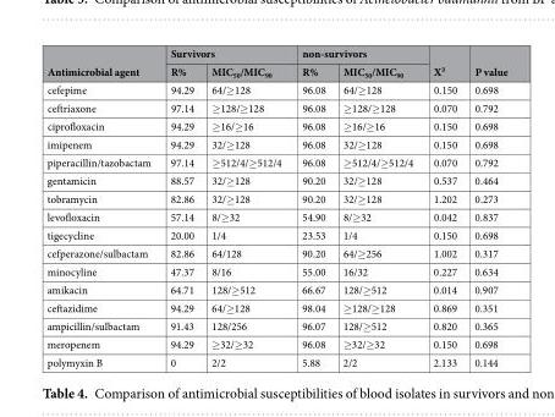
<table><thead><tr><td rowspan="2">Antimicrobial agent</td><td colspan="2">Survivors</td><td colspan="2">non-survivors</td><td rowspan="2">X²</td><td rowspan="2">P value</td></tr><tr><td>R%</td><td>MIC<sub>50</sub>/MIC<sub>90</sub></td><td>R%</td><td>MIC<sub>50</sub>/MIC<sub>90</sub></td></tr></thead><tbody><tr><td>cefepime</td><td>94.29</td><td>64/≥128</td><td>96.08</td><td>64/≥128</td><td>0.150</td><td>0.698</td></tr><tr><td>ceftriaxone</td><td>97.14</td><td>≥128/≥128</td><td>96.08</td><td>≥128/≥128</td><td>0.070</td><td>0.792</td></tr><tr><td>ciprofloxacin</td><td>94.29</td><td>≥16/≥16</td><td>96.08</td><td>≥16/≥16</td><td>0.150</td><td>0.698</td></tr><tr><td>imipenem</td><td>94.29</td><td>32/≥128</td><td>96.08</td><td>32/≥128</td><td>0.150</td><td>0.698</td></tr><tr><td>piperacillin/tazobactam</td><td>97.14</td><td>≥512/4/≥512/4</td><td>96.08</td><td>≥512/4/≥512/4</td><td>0.070</td><td>0.792</td></tr><tr><td>gentamicin</td><td>88.57</td><td>32/≥128</td><td>90.20</td><td>32/≥128</td><td>0.537</td><td>0.464</td></tr><tr><td>tobramycin</td><td>82.86</td><td>32/≥128</td><td>90.20</td><td>32/≥128</td><td>1.202</td><td>0.273</td></tr><tr><td>levofloxacin</td><td>57.14</td><td>8/≥32</td><td>54.90</td><td>8/≥32</td><td>0.042</td><td>0.837</td></tr><tr><td>tigecycline</td><td>20.00</td><td>1/4</td><td>23.53</td><td>1/4</td><td>0.150</td><td>0.698</td></tr><tr><td>cefperazone/sulbactam</td><td>82.86</td><td>64/128</td><td>90.20</td><td>64/≥256</td><td>1.002</td><td>0.317</td></tr><tr><td>minocyline</td><td>47.37</td><td>8/16</td><td>55.00</td><td>16/32</td><td>0.227</td><td>0.634</td></tr><tr><td>amikacin</td><td>64.71</td><td>128/≥512</td><td>66.67</td><td>128/≥512</td><td>0.014</td><td>0.907</td></tr><tr><td>ceftazidime</td><td>94.29</td><td>64/≥128</td><td>98.04</td><td>≥128/≥128</td><td>0.869</td><td>0.351</td></tr><tr><td>ampicillin/sulbactam</td><td>91.43</td><td>128/256</td><td>96.07</td><td>128/≥512</td><td>0.820</td><td>0.365</td></tr><tr><td>meropenem</td><td>94.29</td><td>≥32/≥32</td><td>96.08</td><td>≥32/≥32</td><td>0.150</td><td>0.698</td></tr><tr><td>polymyxin B</td><td>0</td><td>2/2</td><td>5.88</td><td>2/2</td><td>2.133</td><td>0.144</td></tr></tbody></table>